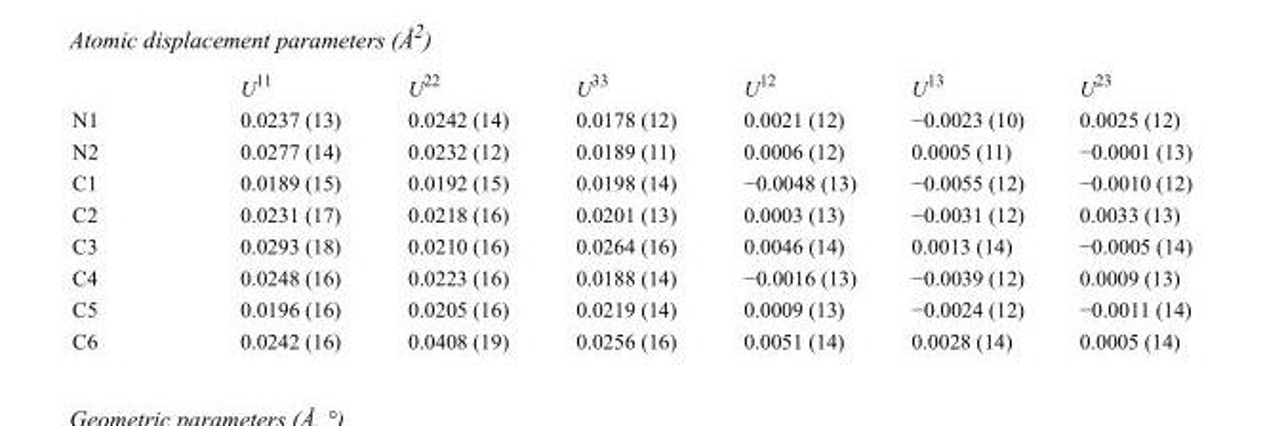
<table><thead><tr><td></td><td>U<sup>11</sup></td><td>U<sup>22</sup></td><td>U<sup>33</sup></td><td>U<sup>12</sup></td><td>U<sup>13</sup></td><td>U<sup>23</sup></td></tr></thead><tbody><tr><td>N1</td><td>0.0237 (13)</td><td>0.0242 (14)</td><td>0.0178 (12)</td><td>0.0021 (12)</td><td>−0.0023 (10)</td><td>0.0025 (12)</td></tr><tr><td>N2</td><td>0.0277 (14)</td><td>0.0232 (12)</td><td>0.0189 (11)</td><td>0.0006 (12)</td><td>0.0005 (11)</td><td>−0.0001 (13)</td></tr><tr><td>C1</td><td>0.0189 (15)</td><td>0.0192 (15)</td><td>0.0198 (14)</td><td>−0.0048 (13)</td><td>−0.0055 (12)</td><td>−0.0010 (12)</td></tr><tr><td>C2</td><td>0.0231 (17)</td><td>0.0218 (16)</td><td>0.0201 (13)</td><td>0.0003 (13)</td><td>−0.0031 (12)</td><td>0.0033 (13)</td></tr><tr><td>C3</td><td>0.0293 (18)</td><td>0.0210 (16)</td><td>0.0264 (16)</td><td>0.0046 (14)</td><td>0.0013 (14)</td><td>−0.0005 (14)</td></tr><tr><td>C4</td><td>0.0248 (16)</td><td>0.0223 (16)</td><td>0.0188 (14)</td><td>−0.0016 (13)</td><td>−0.0039 (12)</td><td>0.0009 (13)</td></tr><tr><td>C5</td><td>0.0196 (16)</td><td>0.0205 (16)</td><td>0.0219 (14)</td><td>0.0009 (13)</td><td>−0.0024 (12)</td><td>−0.0011 (14)</td></tr><tr><td>C6</td><td>0.0242 (16)</td><td>0.0408 (19)</td><td>0.0256 (16)</td><td>0.0051 (14)</td><td>0.0028 (14)</td><td>0.0005 (14)</td></tr></tbody></table>